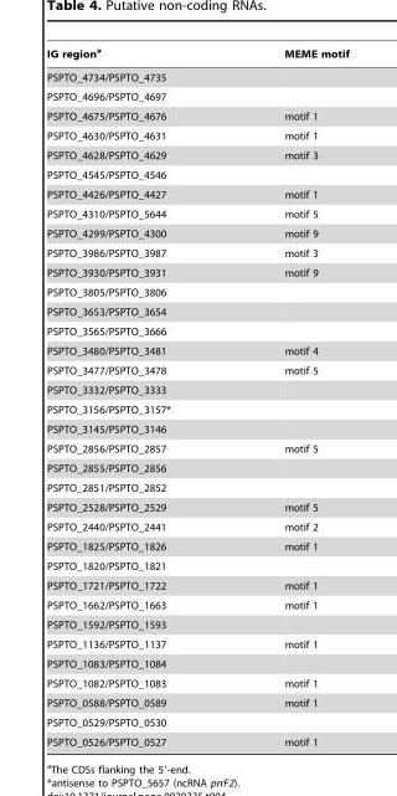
<table><thead><tr><td>IG region<sup>a</sup></td><td>MEME motif</td></tr></thead><tbody><tr><td colspan="2">PSPTO_4734/PSPTO_4735</td></tr><tr><td colspan="2">PSPTO_4696/PSPTO_4697</td></tr><tr><td>PSPTO_4675/PSPTO_4676</td><td>motif 1</td></tr><tr><td>PSPTO_4630/PSPTO_4631</td><td>motif 1</td></tr><tr><td>PSPTO_4628/PSPTO_4629</td><td>motif 3</td></tr><tr><td colspan="2">PSPTO_4545/PSPTO_4546</td></tr><tr><td>PSPTO_4426/PSPTO_4427</td><td>motif 1</td></tr><tr><td>PSPTO_4310/PSPTO_5644</td><td>motif 5</td></tr><tr><td>PSPTO_4299/PSPTO_4300</td><td>motif 9</td></tr><tr><td>PSPTO_3986/PSPTO_3987</td><td>motif 3</td></tr><tr><td>PSPTO_3930/PSPTO_3931</td><td>motif 9</td></tr><tr><td colspan="2">PSPTO_3805/PSPTO_3806</td></tr><tr><td colspan="2">PSPTO_3653/PSPTO_3654</td></tr><tr><td colspan="2">PSPTO_3565/PSPTO_3666</td></tr><tr><td>PSPTO_3480/PSPTO_3481</td><td>motif 4</td></tr><tr><td>PSPTO_3477/PSPTO_3478</td><td>motif 5</td></tr><tr><td colspan="2">PSPTO_3332/PSPTO_3333</td></tr><tr><td colspan="2">PSPTO_3156/PSPTO_3157*</td></tr><tr><td colspan="2">PSPTO_3145/PSPTO_3146</td></tr><tr><td>PSPTO_2856/PSPTO_2857</td><td>motif 5</td></tr><tr><td colspan="2">PSPTO_2855/PSPTO_2856</td></tr><tr><td colspan="2">PSPTO_2851/PSPTO_2852</td></tr><tr><td>PSPTO_2528/PSPTO_2529</td><td>motif 5</td></tr><tr><td>PSPTO_2440/PSPTO_2441</td><td>motif 2</td></tr><tr><td>PSPTO_1825/PSPTO_1826</td><td>motif 1</td></tr><tr><td colspan="2">PSPTO_1820/PSPTO_1821</td></tr><tr><td>PSPTO_1721/PSPTO_1722</td><td>motif 1</td></tr><tr><td>PSPTO_1662/PSPTO_1663</td><td>motif 1</td></tr><tr><td colspan="2">PSPTO_1592/PSPTO_1593</td></tr><tr><td>PSPTO_1136/PSPTO_1137</td><td>motif 1</td></tr><tr><td colspan="2">PSPTO_1083/PSPTO_1084</td></tr><tr><td>PSPTO_1082/PSPTO_1083</td><td>motif 1</td></tr><tr><td>PSPTO_0588/PSPTO_0589</td><td>motif 1</td></tr><tr><td colspan="2">PSPTO_0529/PSPTO_0530</td></tr><tr><td>PSPTO_0526/PSPTO_0527</td><td>motif 1</td></tr></tbody></table>